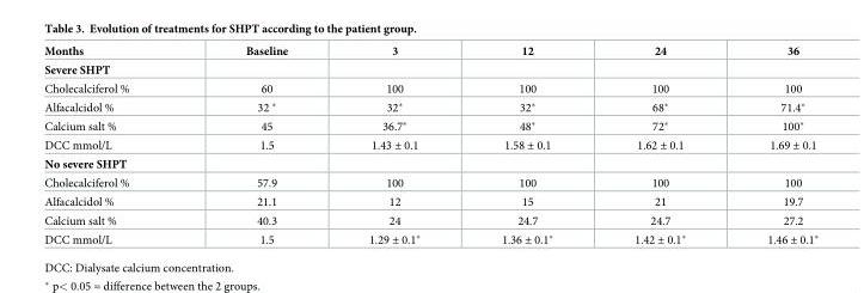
<table><thead><tr><td>Months</td><td>Baseline</td><td>3</td><td>12</td><td>24</td><td>36</td></tr></thead><tbody><tr><td colspan="6">Severe SHPT</td></tr><tr><td>Cholecalciferol %</td><td>60</td><td>100</td><td>100</td><td>100</td><td>100</td></tr><tr><td>Alfacalcidol %</td><td>32 *</td><td>32*</td><td>32*</td><td>68*</td><td>71.4*</td></tr><tr><td>Calcium salt %</td><td>45</td><td>36.7*</td><td>48*</td><td>72*</td><td>100*</td></tr><tr><td>DCC mmol/L</td><td>1.5</td><td>1.43 ± 0.1</td><td>1.58 ± 0.1</td><td>1.62 ± 0.1</td><td>1.69 ± 0.1</td></tr><tr><td colspan="6">No severe SHPT</td></tr><tr><td>Cholecalciferol %</td><td>57.9</td><td>100</td><td>100</td><td>100</td><td>100</td></tr><tr><td>Alfacalcidol %</td><td>21.1</td><td>12</td><td>15</td><td>21</td><td>19.7</td></tr><tr><td>Calcium salt %</td><td>40.3</td><td>24</td><td>24.7</td><td>24.7</td><td>27.2</td></tr><tr><td>DCC mmol/L</td><td>1.5</td><td>1.29 ± 0.1*</td><td>1.36 ± 0.1*</td><td>1.42 ± 0.1*</td><td>1.46 ± 0.1*</td></tr></tbody></table>